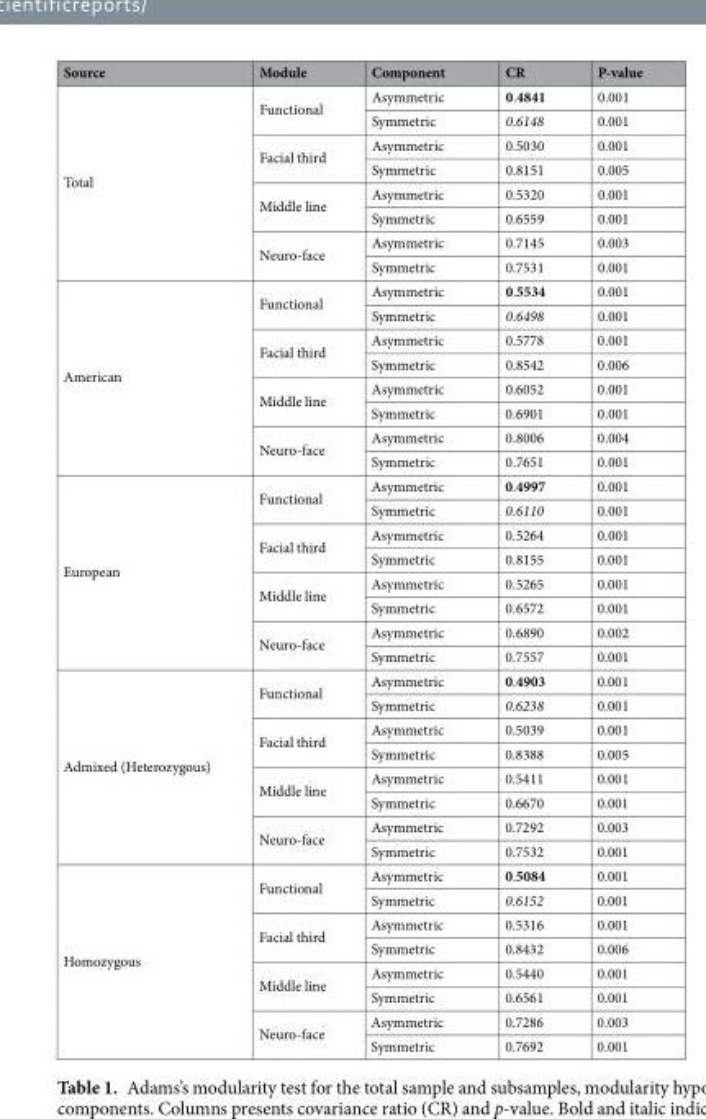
<table><thead><tr><td>Source</td><td>Module</td><td>Component</td><td>CR</td><td>P-value</td></tr></thead><tbody><tr><td rowspan="8">Total</td><td rowspan="2">Functional</td><td>Asymmetric</td><td>0.4841</td><td>0.001</td></tr><tr><td>Symmetric</td><td>0.6148</td><td>0.001</td></tr><tr><td rowspan="2">Facial third</td><td>Asymmetric</td><td>0.5030</td><td>0.001</td></tr><tr><td>Symmetric</td><td>0.8151</td><td>0.005</td></tr><tr><td rowspan="2">Middle line</td><td>Asymmetric</td><td>0.5320</td><td>0.001</td></tr><tr><td>Symmetric</td><td>0.6559</td><td>0.001</td></tr><tr><td rowspan="2">Neuro-face</td><td>Asymmetric</td><td>0.7145</td><td>0.003</td></tr><tr><td>Symmetric</td><td>0.7531</td><td>0.001</td></tr><tr><td rowspan="8">American</td><td rowspan="2">Functional</td><td>Asymmetric</td><td>0.5534</td><td>0.001</td></tr><tr><td>Symmetric</td><td>0.6498</td><td>0.001</td></tr><tr><td rowspan="2">Facial third</td><td>Asymmetric</td><td>0.5778</td><td>0.001</td></tr><tr><td>Symmetric</td><td>0.8542</td><td>0.006</td></tr><tr><td rowspan="2">Middle line</td><td>Asymmetric</td><td>0.6052</td><td>0.001</td></tr><tr><td>Symmetric</td><td>0.6901</td><td>0.001</td></tr><tr><td rowspan="2">Neuro-face</td><td>Asymmetric</td><td>0.8006</td><td>0.004</td></tr><tr><td>Symmetric</td><td>0.7651</td><td>0.001</td></tr><tr><td rowspan="8">European</td><td rowspan="2">Functional</td><td>Asymmetric</td><td>0.4997</td><td>0.001</td></tr><tr><td>Symmetric</td><td>0.6110</td><td>0.001</td></tr><tr><td rowspan="2">Facial third</td><td>Asymmetric</td><td>0.5264</td><td>0.001</td></tr><tr><td>Symmetric</td><td>0.8155</td><td>0.001</td></tr><tr><td rowspan="2">Middle line</td><td>Asymmetric</td><td>0.5265</td><td>0.001</td></tr><tr><td>Symmetric</td><td>0.6572</td><td>0.001</td></tr><tr><td rowspan="2">Neuro-face</td><td>Asymmetric</td><td>0.6890</td><td>0.002</td></tr><tr><td>Symmetric</td><td>0.7557</td><td>0.001</td></tr><tr><td rowspan="8">Admixed (Heterozygous)</td><td rowspan="2">Functional</td><td>Asymmetric</td><td>0.4903</td><td>0.001</td></tr><tr><td>Symmetric</td><td>0.6238</td><td>0.001</td></tr><tr><td rowspan="2">Facial third</td><td>Asymmetric</td><td>0.5039</td><td>0.001</td></tr><tr><td>Symmetric</td><td>0.8388</td><td>0.005</td></tr><tr><td rowspan="2">Middle line</td><td>Asymmetric</td><td>0.5411</td><td>0.001</td></tr><tr><td>Symmetric</td><td>0.6670</td><td>0.001</td></tr><tr><td rowspan="2">Neuro-face</td><td>Asymmetric</td><td>0.7292</td><td>0.003</td></tr><tr><td>Symmetric</td><td>0.7532</td><td>0.001</td></tr><tr><td rowspan="8">Homozygous</td><td rowspan="2">Functional</td><td>Asymmetric</td><td>0.5084</td><td>0.001</td></tr><tr><td>Symmetric</td><td>0.6152</td><td>0.001</td></tr><tr><td rowspan="2">Facial third</td><td>Asymmetric</td><td>0.5316</td><td>0.001</td></tr><tr><td>Symmetric</td><td>0.8432</td><td>0.006</td></tr><tr><td rowspan="2">Middle line</td><td>Asymmetric</td><td>0.5440</td><td>0.001</td></tr><tr><td>Symmetric</td><td>0.6561</td><td>0.001</td></tr><tr><td rowspan="2">Neuro-face</td><td>Asymmetric</td><td>0.7286</td><td>0.003</td></tr><tr><td>Symmetric</td><td>0.7692</td><td>0.001</td></tr></tbody></table>